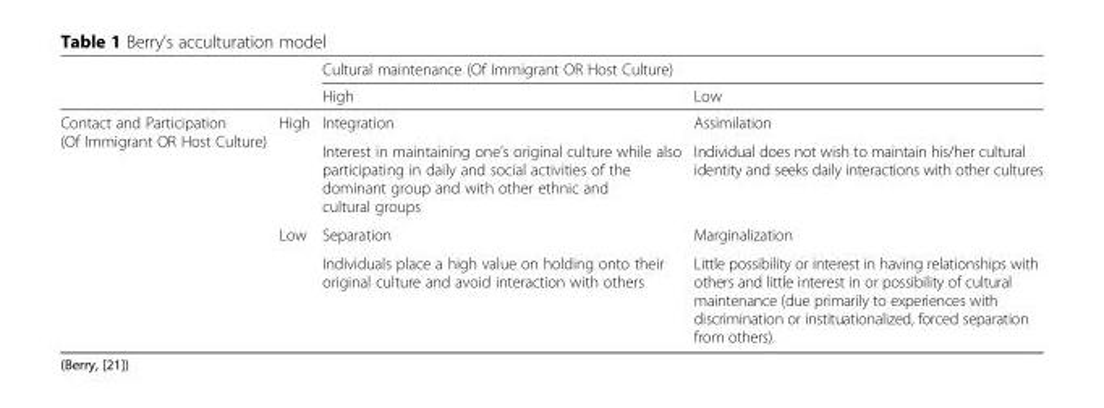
<table><thead><tr><td rowspan="2"></td><td rowspan="2"></td><td colspan="2">Cultural maintenance (Of Immigrant OR Host Culture)</td></tr><tr><td>High</td><td>Low</td></tr></thead><tbody><tr><td rowspan="4">Contact and Participation (Of Immigrant OR Host Culture)</td><td>High</td><td>Integration</td><td>Assimilation</td></tr><tr><td></td><td>Interest in maintaining one’s original culture while also participating in daily and social activities of the dominant group and with other ethnic and cultural groups</td><td>Individual does not wish to maintain his/her cultural identity and seeks daily interactions with other cultures</td></tr><tr><td rowspan="2">Low</td><td>Separation</td><td>Marginalization</td></tr><tr><td>Individuals place a high value on holding onto their original culture and avoid interaction with others</td><td>Little possibility or interest in having relationships with others and little interest in or possibility of cultural maintenance (due primarily to experiences with discrimination or instituationalized, forced separation from others).</td></tr></tbody></table>